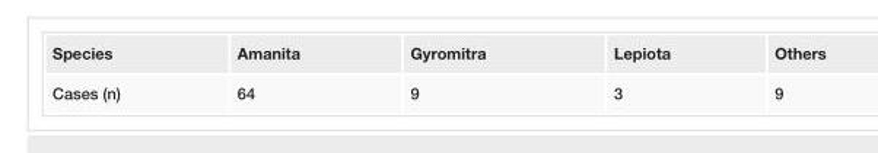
<table><tbody><tr><td>Species</td><td>Amanita</td><td>Gyromitra</td><td>Lepiota</td><td>Others</td></tr><tr><td>Cases (n)</td><td>64</td><td>9</td><td>3</td><td>9</td></tr></tbody></table>